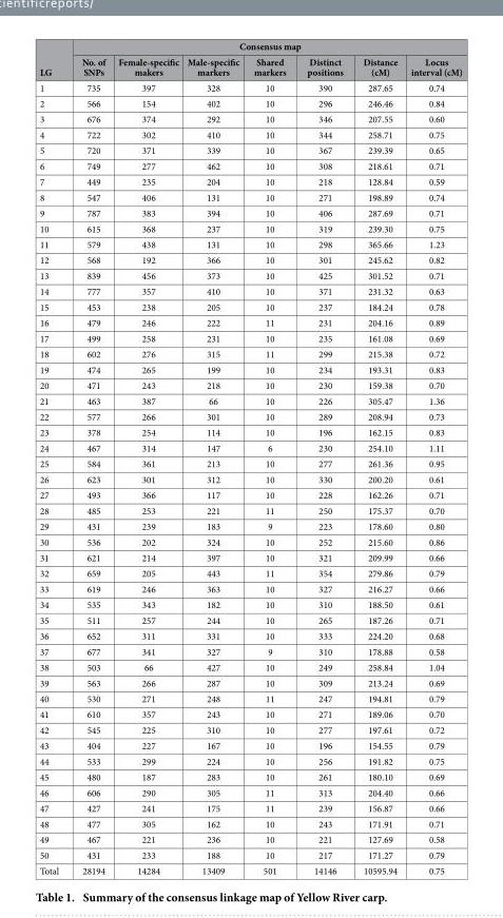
<table><thead><tr><td rowspan="2">LG</td><td colspan="7">Consensus map</td></tr><tr><td>No. of SNPs</td><td>Female-specific makers</td><td>Male-specific markers</td><td>Shared markers</td><td>Distinct positions</td><td>Distance (cM)</td><td>Locus interval (cM)</td></tr></thead><tbody><tr><td>1</td><td>735</td><td>397</td><td>328</td><td>10</td><td>390</td><td>287.65</td><td>0.74</td></tr><tr><td>2</td><td>566</td><td>154</td><td>402</td><td>10</td><td>296</td><td>246.46</td><td>0.84</td></tr><tr><td>3</td><td>676</td><td>374</td><td>292</td><td>10</td><td>346</td><td>207.55</td><td>0.60</td></tr><tr><td>4</td><td>722</td><td>302</td><td>410</td><td>10</td><td>344</td><td>258.71</td><td>0.75</td></tr><tr><td>5</td><td>720</td><td>371</td><td>339</td><td>10</td><td>367</td><td>239.39</td><td>0.65</td></tr><tr><td>6</td><td>749</td><td>277</td><td>462</td><td>10</td><td>308</td><td>218.61</td><td>0.71</td></tr><tr><td>7</td><td>449</td><td>235</td><td>204</td><td>10</td><td>218</td><td>128.84</td><td>0.59</td></tr><tr><td>8</td><td>547</td><td>406</td><td>131</td><td>10</td><td>271</td><td>198.89</td><td>0.74</td></tr><tr><td>9</td><td>787</td><td>383</td><td>394</td><td>10</td><td>406</td><td>287.69</td><td>0.71</td></tr><tr><td>10</td><td>615</td><td>368</td><td>237</td><td>10</td><td>319</td><td>239.30</td><td>0.75</td></tr><tr><td>11</td><td>579</td><td>438</td><td>131</td><td>10</td><td>298</td><td>365.66</td><td>1.23</td></tr><tr><td>12</td><td>568</td><td>192</td><td>366</td><td>10</td><td>301</td><td>245.62</td><td>0.82</td></tr><tr><td>13</td><td>839</td><td>456</td><td>373</td><td>10</td><td>425</td><td>301.52</td><td>0.71</td></tr><tr><td>14</td><td>777</td><td>357</td><td>410</td><td>10</td><td>371</td><td>231.32</td><td>0.63</td></tr><tr><td>15</td><td>453</td><td>238</td><td>205</td><td>10</td><td>237</td><td>184.24</td><td>0.78</td></tr><tr><td>16</td><td>479</td><td>246</td><td>222</td><td>11</td><td>231</td><td>204.16</td><td>0.89</td></tr><tr><td>17</td><td>499</td><td>258</td><td>231</td><td>10</td><td>235</td><td>161.08</td><td>0.69</td></tr><tr><td>18</td><td>602</td><td>276</td><td>315</td><td>11</td><td>299</td><td>215.38</td><td>0.72</td></tr><tr><td>19</td><td>474</td><td>265</td><td>199</td><td>10</td><td>234</td><td>193.31</td><td>0.83</td></tr><tr><td>20</td><td>471</td><td>243</td><td>218</td><td>10</td><td>230</td><td>159.38</td><td>0.70</td></tr><tr><td>21</td><td>463</td><td>387</td><td>66</td><td>10</td><td>226</td><td>305.47</td><td>1.36</td></tr><tr><td>22</td><td>577</td><td>266</td><td>301</td><td>10</td><td>289</td><td>208.94</td><td>0.73</td></tr><tr><td>23</td><td>378</td><td>254</td><td>114</td><td>10</td><td>196</td><td>162.15</td><td>0.83</td></tr><tr><td>24</td><td>467</td><td>314</td><td>147</td><td>6</td><td>230</td><td>254.10</td><td>1.11</td></tr><tr><td>25</td><td>584</td><td>361</td><td>213</td><td>10</td><td>277</td><td>261.36</td><td>0.95</td></tr><tr><td>26</td><td>623</td><td>301</td><td>312</td><td>10</td><td>330</td><td>200.20</td><td>0.61</td></tr><tr><td>27</td><td>493</td><td>366</td><td>117</td><td>10</td><td>228</td><td>162.26</td><td>0.71</td></tr><tr><td>28</td><td>485</td><td>253</td><td>221</td><td>11</td><td>250</td><td>175.37</td><td>0.70</td></tr><tr><td>29</td><td>431</td><td>239</td><td>183</td><td>9</td><td>223</td><td>178.60</td><td>0.80</td></tr><tr><td>30</td><td>536</td><td>202</td><td>324</td><td>10</td><td>252</td><td>215.60</td><td>0.86</td></tr><tr><td>31</td><td>621</td><td>214</td><td>397</td><td>10</td><td>321</td><td>209.99</td><td>0.66</td></tr><tr><td>32</td><td>659</td><td>205</td><td>443</td><td>11</td><td>354</td><td>279.86</td><td>0.79</td></tr><tr><td>33</td><td>619</td><td>246</td><td>363</td><td>10</td><td>327</td><td>216.27</td><td>0.66</td></tr><tr><td>34</td><td>535</td><td>343</td><td>182</td><td>10</td><td>310</td><td>188.50</td><td>0.61</td></tr><tr><td>35</td><td>511</td><td>257</td><td>244</td><td>10</td><td>265</td><td>187.26</td><td>0.71</td></tr><tr><td>36</td><td>652</td><td>311</td><td>331</td><td>10</td><td>333</td><td>224.20</td><td>0.68</td></tr><tr><td>37</td><td>677</td><td>341</td><td>327</td><td>9</td><td>310</td><td>178.88</td><td>0.58</td></tr><tr><td>38</td><td>503</td><td>66</td><td>427</td><td>10</td><td>249</td><td>258.84</td><td>1.04</td></tr><tr><td>39</td><td>563</td><td>266</td><td>287</td><td>10</td><td>309</td><td>213.24</td><td>0.69</td></tr><tr><td>40</td><td>530</td><td>271</td><td>248</td><td>11</td><td>247</td><td>194.81</td><td>0.79</td></tr><tr><td>41</td><td>610</td><td>357</td><td>243</td><td>10</td><td>271</td><td>189.06</td><td>0.70</td></tr><tr><td>42</td><td>545</td><td>225</td><td>310</td><td>10</td><td>277</td><td>197.61</td><td>0.72</td></tr><tr><td>43</td><td>404</td><td>227</td><td>167</td><td>10</td><td>196</td><td>154.55</td><td>0.79</td></tr><tr><td>44</td><td>533</td><td>299</td><td>224</td><td>10</td><td>256</td><td>191.82</td><td>0.75</td></tr><tr><td>45</td><td>480</td><td>187</td><td>283</td><td>10</td><td>261</td><td>180.10</td><td>0.69</td></tr><tr><td>46</td><td>606</td><td>290</td><td>305</td><td>11</td><td>313</td><td>204.40</td><td>0.66</td></tr><tr><td>47</td><td>427</td><td>241</td><td>175</td><td>11</td><td>239</td><td>156.87</td><td>0.66</td></tr><tr><td>48</td><td>477</td><td>305</td><td>162</td><td>10</td><td>243</td><td>171.91</td><td>0.71</td></tr><tr><td>49</td><td>467</td><td>221</td><td>236</td><td>10</td><td>221</td><td>127.69</td><td>0.58</td></tr><tr><td>50</td><td>431</td><td>233</td><td>188</td><td>10</td><td>217</td><td>171.27</td><td>0.79</td></tr><tr><td>Total</td><td>28194</td><td>14284</td><td>13409</td><td>501</td><td>14146</td><td>10595.94</td><td>0.75</td></tr></tbody></table>